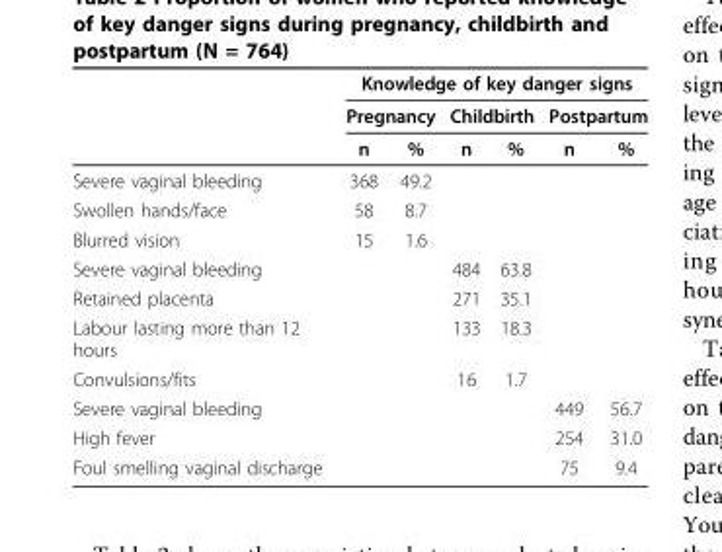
<table><thead><tr><td rowspan="3"></td><td colspan="6">Knowledge of key danger signs</td></tr><tr><td colspan="2">Pregnancy</td><td colspan="2">Childbirth</td><td colspan="2">Postpartum</td></tr><tr><td>n</td><td>%</td><td>n</td><td>%</td><td>n</td><td>%</td></tr></thead><tbody><tr><td>Severe vaginal bleeding</td><td>368</td><td>49.2</td><td></td><td></td><td></td><td></td></tr><tr><td>Swollen hands/face</td><td>58</td><td>8.7</td><td></td><td></td><td></td><td></td></tr><tr><td>Blurred vision</td><td>15</td><td>1.6</td><td></td><td></td><td></td><td></td></tr><tr><td>Severe vaginal bleeding</td><td></td><td></td><td>484</td><td>63.8</td><td></td><td></td></tr><tr><td>Retained placenta</td><td></td><td></td><td>271</td><td>35.1</td><td></td><td></td></tr><tr><td>Labour lasting more than 12 hours</td><td></td><td></td><td>133</td><td>18.3</td><td></td><td></td></tr><tr><td>Convulsions/fits</td><td></td><td></td><td>16</td><td>1.7</td><td></td><td></td></tr><tr><td>Severe vaginal bleeding</td><td></td><td></td><td></td><td></td><td>449</td><td>56.7</td></tr><tr><td>High fever</td><td></td><td></td><td></td><td></td><td>254</td><td>31.0</td></tr><tr><td>Foul smelling vaginal discharge</td><td></td><td></td><td></td><td></td><td>75</td><td>9.4</td></tr></tbody></table>